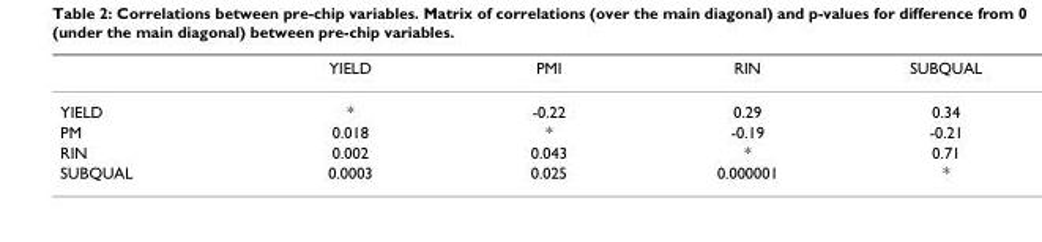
<table><thead><tr><td></td><td>YIELD</td><td>PMI</td><td>RIN</td><td>SUBQUAL</td></tr></thead><tbody><tr><td>YIELD</td><td>*</td><td>-0.22</td><td>0.29</td><td>0.34</td></tr><tr><td>PM</td><td>0.018</td><td>*</td><td>-0.19</td><td>-0.21</td></tr><tr><td>RIN</td><td>0.002</td><td>0.043</td><td>*</td><td>0.71</td></tr><tr><td>SUBQUAL</td><td>0.0003</td><td>0.025</td><td>0.000001</td><td>*</td></tr></tbody></table>